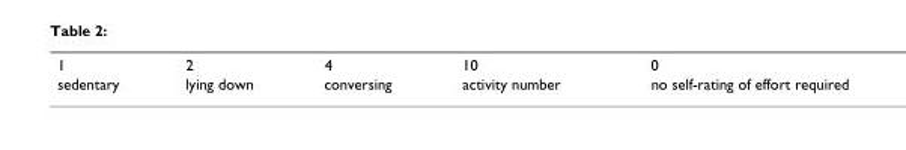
<table><tbody><tr><td>1</td><td>2</td><td>4</td><td>10</td><td>0</td></tr><tr><td>sedentary</td><td>lying down</td><td>conversing</td><td>activity number</td><td>no self-rating of effort required</td></tr></tbody></table>